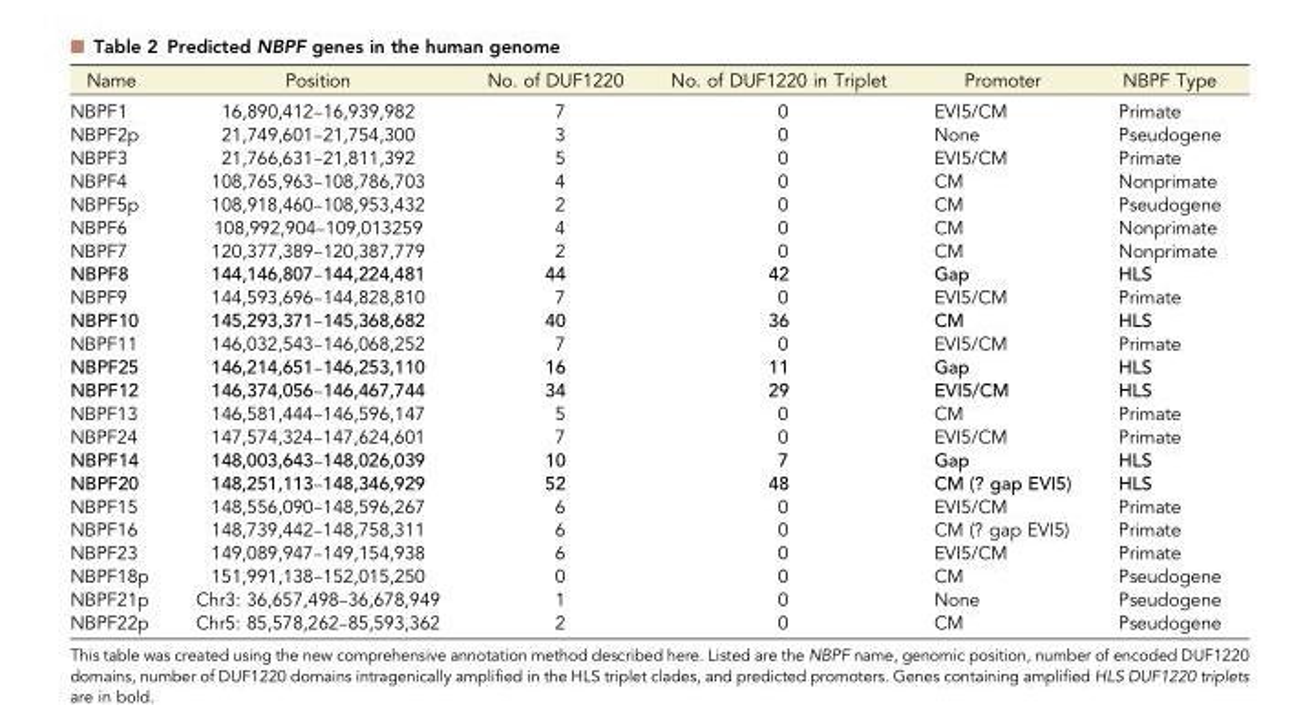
<table><thead><tr><td>Name</td><td>Position</td><td>No. of DUF1220</td><td>No. of DUF1220 in Triplet</td><td>Promoter</td><td>NBPF Type</td></tr></thead><tbody><tr><td>NBPF1</td><td>16,890,412–16,939,982</td><td>7</td><td>0</td><td>EVI5/CM</td><td>Primate</td></tr><tr><td>NBPF2p</td><td>21,749,601–21,754,300</td><td>3</td><td>0</td><td>None</td><td>Pseudogene</td></tr><tr><td>NBPF3</td><td>21,766,631–21,811,392</td><td>5</td><td>0</td><td>EVI5/CM</td><td>Primate</td></tr><tr><td>NBPF4</td><td>108,765,963–108,786,703</td><td>4</td><td>0</td><td>CM</td><td>Nonprimate</td></tr><tr><td>NBPF5p</td><td>108,918,460–108,953,432</td><td>2</td><td>0</td><td>CM</td><td>Pseudogene</td></tr><tr><td>NBPF6</td><td>108,992,904–109,013259</td><td>4</td><td>0</td><td>CM</td><td>Nonprimate</td></tr><tr><td>NBPF7</td><td>120,377,389–120,387,779</td><td>2</td><td>0</td><td>CM</td><td>Nonprimate</td></tr><tr><td>NBPF8</td><td>144,146,807–144,224,481</td><td>44</td><td>42</td><td>Gap</td><td>HLS</td></tr><tr><td>NBPF9</td><td>144,593,696–144,828,810</td><td>7</td><td>0</td><td>EVI5/CM</td><td>Primate</td></tr><tr><td>NBPF10</td><td>145,293,371–145,368,682</td><td>40</td><td>36</td><td>CM</td><td>HLS</td></tr><tr><td>NBPF11</td><td>146,032,543–146,068,252</td><td>7</td><td>0</td><td>EVI5/CM</td><td>Primate</td></tr><tr><td>NBPF25</td><td>146,214,651–146,253,110</td><td>16</td><td>11</td><td>Gap</td><td>HLS</td></tr><tr><td>NBPF12</td><td>146,374,056–146,467,744</td><td>34</td><td>29</td><td>EVI5/CM</td><td>HLS</td></tr><tr><td>NBPF13</td><td>146,581,444–146,596,147</td><td>5</td><td>0</td><td>CM</td><td>Primate</td></tr><tr><td>NBPF24</td><td>147,574,324–147,624,601</td><td>7</td><td>0</td><td>EVI5/CM</td><td>Primate</td></tr><tr><td>NBPF14</td><td>148,003,643–148,026,039</td><td>10</td><td>7</td><td>Gap</td><td>HLS</td></tr><tr><td>NBPF20</td><td>148,251,113–148,346,929</td><td>52</td><td>48</td><td>CM (? gap EVI5)</td><td>HLS</td></tr><tr><td>NBPF15</td><td>148,556,090–148,596,267</td><td>6</td><td>0</td><td>EVI5/CM</td><td>Primate</td></tr><tr><td>NBPF16</td><td>148,739,442–148,758,311</td><td>6</td><td>0</td><td>CM (? gap EVI5)</td><td>Primate</td></tr><tr><td>NBPF23</td><td>149,089,947–149,154,938</td><td>6</td><td>0</td><td>EVI5/CM</td><td>Primate</td></tr><tr><td>NBPF18p</td><td>151,991,138–152,015,250</td><td>0</td><td>0</td><td>CM</td><td>Pseudogene</td></tr><tr><td>NBPF21p</td><td>Chr3: 36,657,498–36,678,949</td><td>1</td><td>0</td><td>None</td><td>Pseudogene</td></tr><tr><td>NBPF22p</td><td>Chr5: 85,578,262–85,593,362</td><td>2</td><td>0</td><td>CM</td><td>Pseudogene</td></tr></tbody></table>